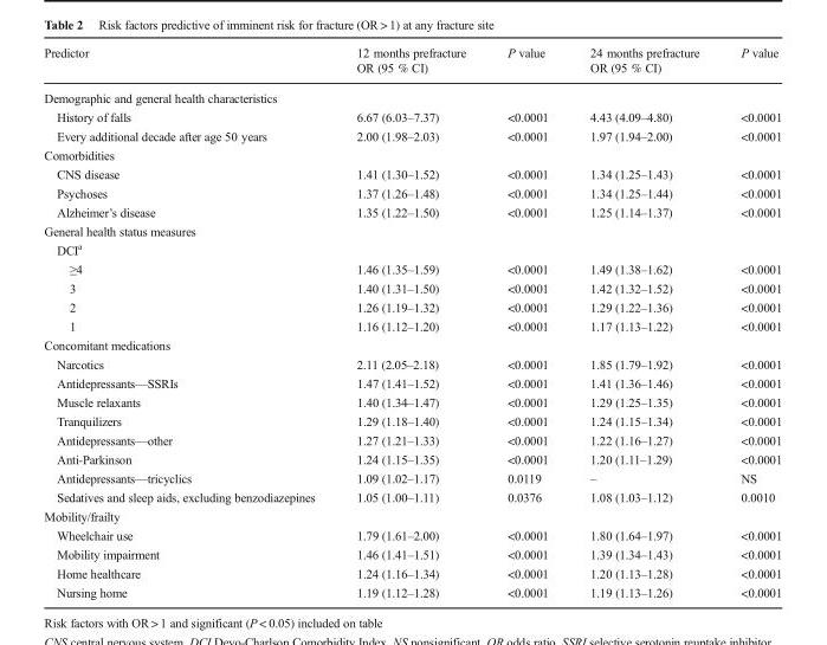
<table><thead><tr><td>Predictor</td><td>12 months prefracture OR (95 % CI)</td><td>P value</td><td>24 months prefracture OR (95 % CI)</td><td>P value</td></tr></thead><tbody><tr><td colspan="5">Demographic and general health characteristics</td></tr><tr><td>History of falls</td><td>6.67 (6.03–7.37)</td><td>&lt;0.0001</td><td>4.43 (4.09–4.80)</td><td>&lt;0.0001</td></tr><tr><td>Every additional decade after age 50 years</td><td>2.00 (1.98–2.03)</td><td>&lt;0.0001</td><td>1.97 (1.94–2.00)</td><td>&lt;0.0001</td></tr><tr><td colspan="5">Comorbidities</td></tr><tr><td>CNS disease</td><td>1.41 (1.30–1.52)</td><td>&lt;0.0001</td><td>1.34 (1.25–1.43)</td><td>&lt;0.0001</td></tr><tr><td>Psychoses</td><td>1.37 (1.26–1.48)</td><td>&lt;0.0001</td><td>1.34 (1.25–1.44)</td><td>&lt;0.0001</td></tr><tr><td>Alzheimer’s disease</td><td>1.35 (1.22–1.50)</td><td>&lt;0.0001</td><td>1.25 (1.14–1.37)</td><td>&lt;0.0001</td></tr><tr><td colspan="5">General health status measures</td></tr><tr><td colspan="5">DCI<sup>a</sup></td></tr><tr><td>≥4</td><td>1.46 (1.35–1.59)</td><td>&lt;0.0001</td><td>1.49 (1.38–1.62)</td><td>&lt;0.0001</td></tr><tr><td>3</td><td>1.40 (1.31–1.50)</td><td>&lt;0.0001</td><td>1.42 (1.32–1.52)</td><td>&lt;0.0001</td></tr><tr><td>2</td><td>1.26 (1.19–1.32)</td><td>&lt;0.0001</td><td>1.29 (1.22–1.36)</td><td>&lt;0.0001</td></tr><tr><td>1</td><td>1.16 (1.12–1.20)</td><td>&lt;0.0001</td><td>1.17 (1.13–1.22)</td><td>&lt;0.0001</td></tr><tr><td colspan="5">Concomitant medications</td></tr><tr><td>Narcotics</td><td>2.11 (2.05–2.18)</td><td>&lt;0.0001</td><td>1.85 (1.79–1.92)</td><td>&lt;0.0001</td></tr><tr><td>Antidepressants—SSRIs</td><td>1.47 (1.41–1.52)</td><td>&lt;0.0001</td><td>1.41 (1.36–1.46)</td><td>&lt;0.0001</td></tr><tr><td>Muscle relaxants</td><td>1.40 (1.34–1.47)</td><td>&lt;0.0001</td><td>1.29 (1.25–1.35)</td><td>&lt;0.0001</td></tr><tr><td>Tranquilizers</td><td>1.29 (1.18–1.40)</td><td>&lt;0.0001</td><td>1.24 (1.15–1.34)</td><td>&lt;0.0001</td></tr><tr><td>Antidepressants—other</td><td>1.27 (1.21–1.33)</td><td>&lt;0.0001</td><td>1.22 (1.16–1.27)</td><td>&lt;0.0001</td></tr><tr><td>Anti-Parkinson</td><td>1.24 (1.15–1.35)</td><td>&lt;0.0001</td><td>1.20 (1.11–1.29)</td><td>&lt;0.0001</td></tr><tr><td>Antidepressants—tricyclics</td><td>1.09 (1.02–1.17)</td><td>0.0119</td><td>–</td><td>NS</td></tr><tr><td>Sedatives and sleep aids, excluding benzodiazepines</td><td>1.05 (1.00–1.11)</td><td>0.0376</td><td>1.08 (1.03–1.12)</td><td>0.0010</td></tr><tr><td colspan="5">Mobility/frailty</td></tr><tr><td>Wheelchair use</td><td>1.79 (1.61–2.00)</td><td>&lt;0.0001</td><td>1.80 (1.64–1.97)</td><td>&lt;0.0001</td></tr><tr><td>Mobility impairment</td><td>1.46 (1.41–1.51)</td><td>&lt;0.0001</td><td>1.39 (1.34–1.43)</td><td>&lt;0.0001</td></tr><tr><td>Home healthcare</td><td>1.24 (1.16–1.34)</td><td>&lt;0.0001</td><td>1.20 (1.13–1.28)</td><td>&lt;0.0001</td></tr><tr><td>Nursing home</td><td>1.19 (1.12–1.28)</td><td>&lt;0.0001</td><td>1.19 (1.13–1.26)</td><td>&lt;0.0001</td></tr></tbody></table>